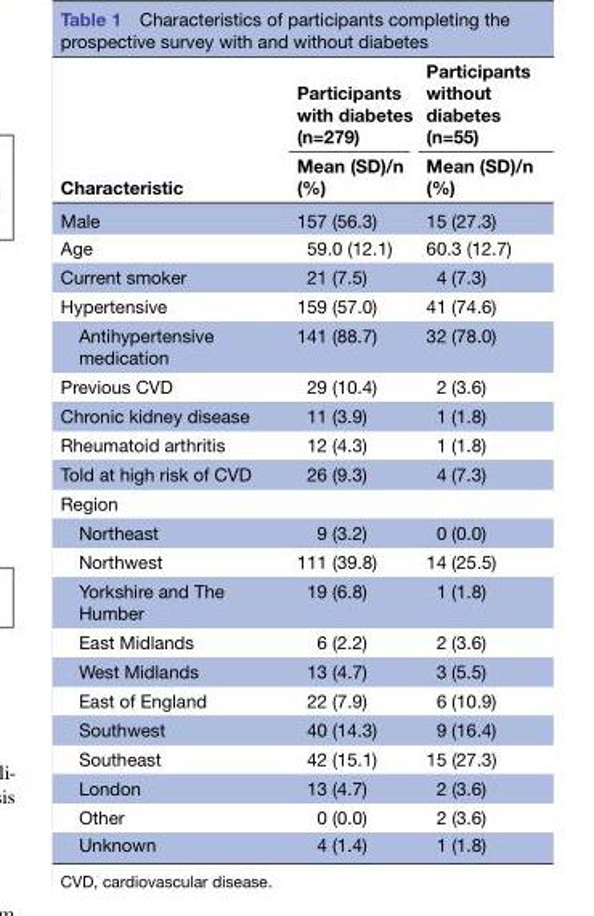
<table><thead><tr><td rowspan="2">Characteristic</td><td rowspan="2">Participants with diabetes (n=279) Mean (SD)/n (%)</td><td rowspan="2">Participants without diabetes (n=55) Mean (SD)/n (%)</td></tr><tr></tr></thead><tbody><tr><td>Male</td><td>157 (56.3)</td><td>15 (27.3)</td></tr><tr><td>Age</td><td>59.0 (12.1)</td><td>60.3 (12.7)</td></tr><tr><td>Current smoker</td><td>21 (7.5)</td><td>4 (7.3)</td></tr><tr><td>Hypertensive</td><td>159 (57.0)</td><td>41 (74.6)</td></tr><tr><td>Antihypertensive medication</td><td>141 (88.7)</td><td>32 (78.0)</td></tr><tr><td>Previous CVD</td><td>29 (10.4)</td><td>2 (3.6)</td></tr><tr><td>Chronic kidney disease</td><td>11 (3.9)</td><td>1 (1.8)</td></tr><tr><td>Rheumatoid arthritis</td><td>12 (4.3)</td><td>1 (1.8)</td></tr><tr><td>Told at high risk of CVD</td><td>26 (9.3)</td><td>4 (7.3)</td></tr><tr><td colspan="3">Region</td></tr><tr><td>Northeast</td><td>9 (3.2)</td><td>0 (0.0)</td></tr><tr><td>Northwest</td><td>111 (39.8)</td><td>14 (25.5)</td></tr><tr><td>Yorkshire and The Humber</td><td>19 (6.8)</td><td>1 (1.8)</td></tr><tr><td>East Midlands</td><td>6 (2.2)</td><td>2 (3.6)</td></tr><tr><td>West Midlands</td><td>13 (4.7)</td><td>3 (5.5)</td></tr><tr><td>East of England</td><td>22 (7.9)</td><td>6 (10.9)</td></tr><tr><td>Southwest</td><td>40 (14.3)</td><td>9 (16.4)</td></tr><tr><td>Southeast</td><td>42 (15.1)</td><td>15 (27.3)</td></tr><tr><td>London</td><td>13 (4.7)</td><td>2 (3.6)</td></tr><tr><td>Other</td><td>0 (0.0)</td><td>2 (3.6)</td></tr><tr><td>Unknown</td><td>4 (1.4)</td><td>1 (1.8)</td></tr></tbody></table>